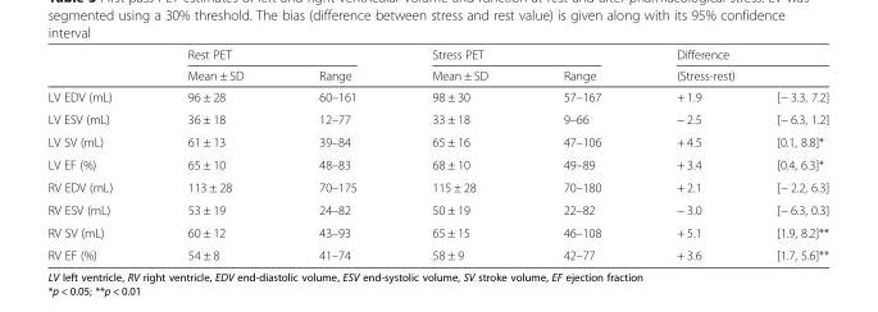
<table><thead><tr><td rowspan="3">LV EDV (mL)</td><td colspan="2">Rest PET</td><td colspan="2">Stress PET</td><td rowspan="2" colspan="2">Difference (Stress-rest)</td></tr><tr><td rowspan="2">Mean ± SD 96 ± 28</td><td rowspan="2">Range 60–161</td><td rowspan="2">Mean ± SD 98 ± 30</td><td rowspan="2">Range 57–167</td></tr><tr><td>+ 1.9</td><td>[− 3.3, 7.2]</td></tr></thead><tbody><tr><td>LV ESV (mL)</td><td>36 ± 18</td><td>12–77</td><td>33 ± 18</td><td>9–66</td><td>− 2.5</td><td>[− 6.3, 1.2]</td></tr><tr><td>LV SV (mL)</td><td>61 ± 13</td><td>39–84</td><td>65 ± 16</td><td>47–106</td><td>+ 4.5</td><td>[0.1, 8.8]*</td></tr><tr><td>LV EF (%)</td><td>65 ± 10</td><td>48–83</td><td>68 ± 10</td><td>49–89</td><td>+ 3.4</td><td>[0.4, 6.3]*</td></tr><tr><td>RV EDV (mL)</td><td>113 ± 28</td><td>70–175</td><td>115 ± 28</td><td>70–180</td><td>+ 2.1</td><td>[− 2.2, 6.3]</td></tr><tr><td>RV ESV (mL)</td><td>53 ± 19</td><td>24–82</td><td>50 ± 19</td><td>22–82</td><td>− 3.0</td><td>[− 6.3, 0.3]</td></tr><tr><td>RV SV (mL)</td><td>60 ± 12</td><td>43–93</td><td>65 ± 15</td><td>46–108</td><td>+ 5.1</td><td>[1.9, 8.2]**</td></tr><tr><td>RV EF (%)</td><td>54 ± 8</td><td>41–74</td><td>58 ± 9</td><td>42–77</td><td>+ 3.6</td><td>[1.7, 5.6]**</td></tr></tbody></table>